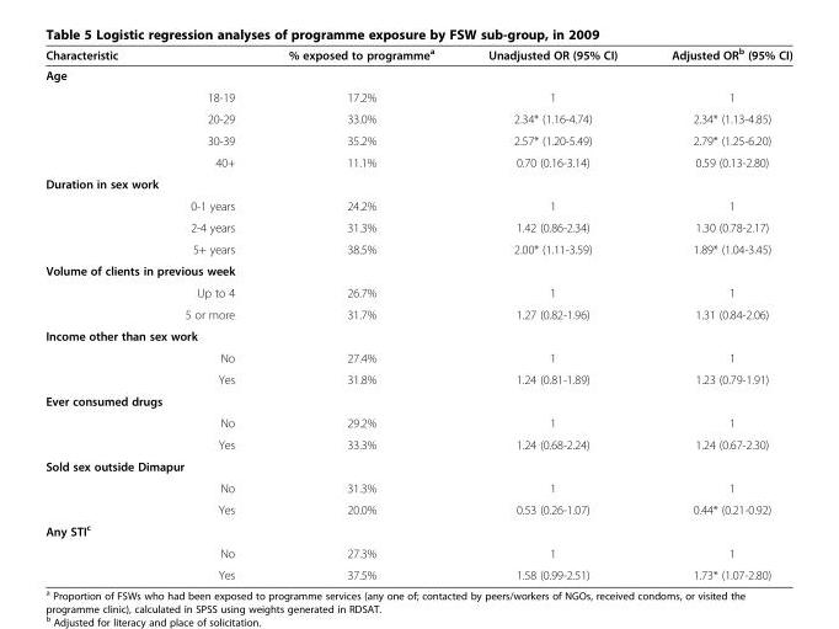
<table><thead><tr><td>Characteristic</td><td>% exposed to programme<sup>a</sup></td><td>Unadjusted OR (95% CI)</td><td>Adjusted OR<sup>b</sup> (95% CI)</td></tr></thead><tbody><tr><td colspan="4">Age</td></tr><tr><td>18-19</td><td>17.2%</td><td>1</td><td>1</td></tr><tr><td>20-29</td><td>33.0%</td><td>2.34* (1.16-4.74)</td><td>2.34* (1.13-4.85)</td></tr><tr><td>30-39</td><td>35.2%</td><td>2.57* (1.20-5.49)</td><td>2.79* (1.25-6.20)</td></tr><tr><td>40+</td><td>11.1%</td><td>0.70 (0.16-3.14)</td><td>0.59 (0.13-2.80)</td></tr><tr><td colspan="4">Duration in sex work</td></tr><tr><td>0-1 years</td><td>24.2%</td><td>1</td><td>1</td></tr><tr><td>2-4 years</td><td>31.3%</td><td>1.42 (0.86-2.34)</td><td>1.30 (0.78-2.17)</td></tr><tr><td>5+ years</td><td>38.5%</td><td>2.00* (1.11-3.59)</td><td>1.89* (1.04-3.45)</td></tr><tr><td colspan="4">Volume of clients in previous week</td></tr><tr><td>Up to 4</td><td>26.7%</td><td>1</td><td>1</td></tr><tr><td>5 or more</td><td>31.7%</td><td>1.27 (0.82-1.96)</td><td>1.31 (0.84-2.06)</td></tr><tr><td colspan="4">Income other than sex work</td></tr><tr><td>No</td><td>27.4%</td><td>1</td><td>1</td></tr><tr><td>Yes</td><td>31.8%</td><td>1.24 (0.81-1.89)</td><td>1.23 (0.79-1.91)</td></tr><tr><td colspan="4">Ever consumed drugs</td></tr><tr><td>No</td><td>29.2%</td><td>1</td><td>1</td></tr><tr><td>Yes</td><td>33.3%</td><td>1.24 (0.68-2.24)</td><td>1.24 (0.67-2.30)</td></tr><tr><td colspan="4">Sold sex outside Dimapur</td></tr><tr><td>No</td><td>31.3%</td><td>1</td><td>1</td></tr><tr><td>Yes</td><td>20.0%</td><td>0.53 (0.26-1.07)</td><td>0.44* (0.21-0.92)</td></tr><tr><td colspan="4">Any STI<sup>c</sup></td></tr><tr><td>No</td><td>27.3%</td><td>1</td><td>1</td></tr><tr><td>Yes</td><td>37.5%</td><td>1.58 (0.99-2.51)</td><td>1.73* (1.07-2.80)</td></tr></tbody></table>